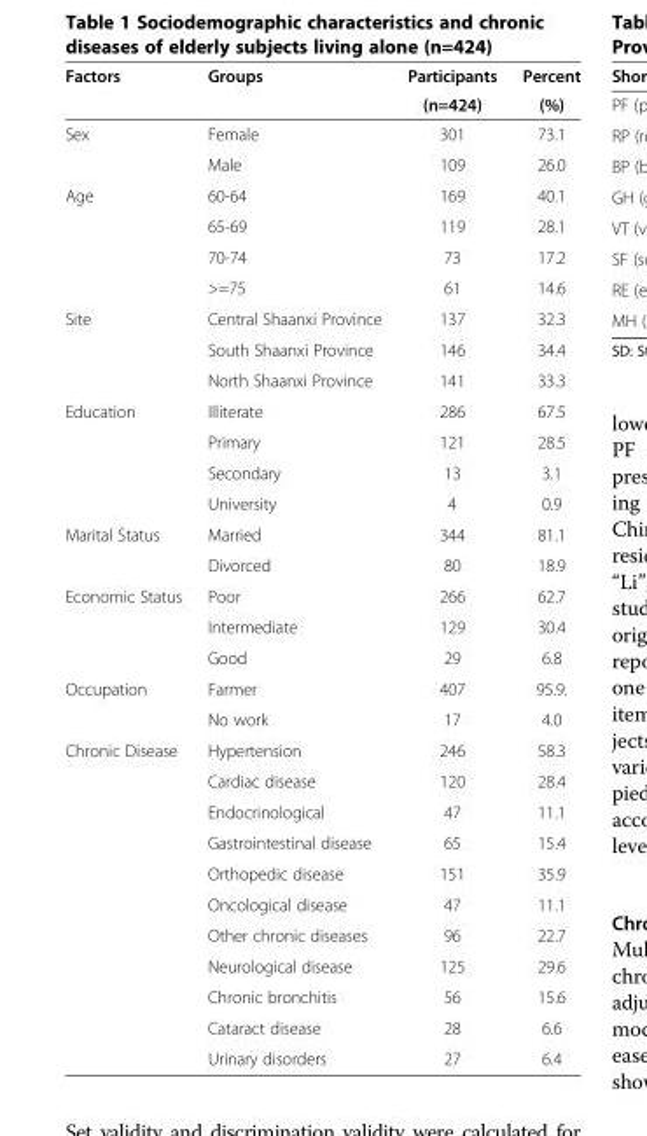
<table><thead><tr><td rowspan="2">Factors</td><td rowspan="2">Groups</td><td rowspan="2">Participants (n=424)</td><td rowspan="2">Percent (%)</td></tr><tr></tr></thead><tbody><tr><td rowspan="2">Sex</td><td>Female</td><td>301</td><td>73.1</td></tr><tr><td>Male</td><td>109</td><td>26.0</td></tr><tr><td rowspan="4">Age</td><td>60-64</td><td>169</td><td>40.1</td></tr><tr><td>65-69</td><td>119</td><td>28.1</td></tr><tr><td>70-74</td><td>73</td><td>17.2</td></tr><tr><td>&gt;=75</td><td>61</td><td>14.6</td></tr><tr><td rowspan="3">Site</td><td>Central Shaanxi Province</td><td>137</td><td>32.3</td></tr><tr><td>South Shaanxi Province</td><td>146</td><td>34.4</td></tr><tr><td>North Shaanxi Province</td><td>141</td><td>33.3</td></tr><tr><td rowspan="4">Education</td><td>Illiterate</td><td>286</td><td>67.5</td></tr><tr><td>Primary</td><td>121</td><td>28.5</td></tr><tr><td>Secondary</td><td>13</td><td>3.1</td></tr><tr><td>University</td><td>4</td><td>0.9</td></tr><tr><td rowspan="2">Marital Status</td><td>Married</td><td>344</td><td>81.1</td></tr><tr><td>Divorced</td><td>80</td><td>18.9</td></tr><tr><td rowspan="3">Economic Status</td><td>Poor</td><td>266</td><td>62.7</td></tr><tr><td>Intermediate</td><td>129</td><td>30.4</td></tr><tr><td>Good</td><td>29</td><td>6.8</td></tr><tr><td rowspan="2">Occupation</td><td>Farmer</td><td>407</td><td>95.9.</td></tr><tr><td>No work</td><td>17</td><td>4.0</td></tr><tr><td rowspan="11">Chronic Disease</td><td>Hypertension</td><td>246</td><td>58.3</td></tr><tr><td>Cardiac disease</td><td>120</td><td>28.4</td></tr><tr><td>Endocrinological</td><td>47</td><td>11.1</td></tr><tr><td>Gastrointestinal disease</td><td>65</td><td>15.4</td></tr><tr><td>Orthopedic disease</td><td>151</td><td>35.9</td></tr><tr><td>Oncological disease</td><td>47</td><td>11.1</td></tr><tr><td>Other chronic diseases</td><td>96</td><td>22.7</td></tr><tr><td>Neurological disease</td><td>125</td><td>29.6</td></tr><tr><td>Chronic bronchitis</td><td>56</td><td>15.6</td></tr><tr><td>Cataract disease</td><td>28</td><td>6.6</td></tr><tr><td>Urinary disorders</td><td>27</td><td>6.4</td></tr></tbody></table>